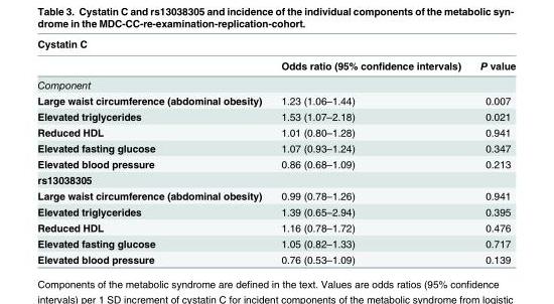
<table><thead><tr><td colspan="3">Cystatin C</td></tr><tr><td></td><td>Odds ratio (95% confidence intervals)</td><td>P value</td></tr></thead><tbody><tr><td colspan="3">Component</td></tr><tr><td>Large waist circumference (abdominal obesity)</td><td>1.23 (1.06–1.44)</td><td>0.007</td></tr><tr><td>Elevated triglycerides</td><td>1.53 (1.07–2.18)</td><td>0.021</td></tr><tr><td>Reduced HDL</td><td>1.01 (0.80–1.28)</td><td>0.941</td></tr><tr><td>Elevated fasting glucose</td><td>1.07 (0.93–1.24)</td><td>0.347</td></tr><tr><td>Elevated blood pressure</td><td>0.86 (0.68–1.09)</td><td>0.213</td></tr><tr><td colspan="3">rs13038305</td></tr><tr><td>Large waist circumference (abdominal obesity)</td><td>0.99 (0.78–1.26)</td><td>0.941</td></tr><tr><td>Elevated triglycerides</td><td>1.39 (0.65–2.94)</td><td>0.395</td></tr><tr><td>Reduced HDL</td><td>1.16 (0.78–1.72)</td><td>0.476</td></tr><tr><td>Elevated fasting glucose</td><td>1.05 (0.82–1.33)</td><td>0.717</td></tr><tr><td>Elevated blood pressure</td><td>0.76 (0.53–1.09)</td><td>0.139</td></tr></tbody></table>